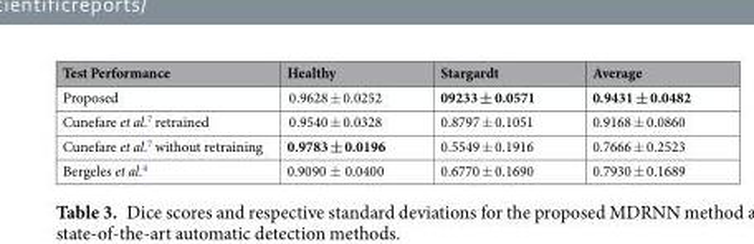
<table><thead><tr><td>Test Performance</td><td>Healthy</td><td>Stargardt</td><td>Average</td></tr></thead><tbody><tr><td>Proposed</td><td>0.9628 ± 0.0252</td><td>09233 ± 0.0571</td><td>0.9431 ± 0.0482</td></tr><tr><td>Cunefare et al.<sup>7</sup> retrained</td><td>0.9540 ± 0.0328</td><td>0.8797 ± 0.1051</td><td>0.9168 ± 0.0860</td></tr><tr><td>Cunefare et al.<sup>7</sup> without retraining</td><td>0.9783 ± 0.0196</td><td>0.5549 ± 0.1916</td><td>0.7666 ± 0.2523</td></tr><tr><td>Bergeles et al.<sup>4</sup></td><td>0.9090 ± 0.0400</td><td>0.6770 ± 0.1690</td><td>0.7930 ± 0.1689</td></tr></tbody></table>